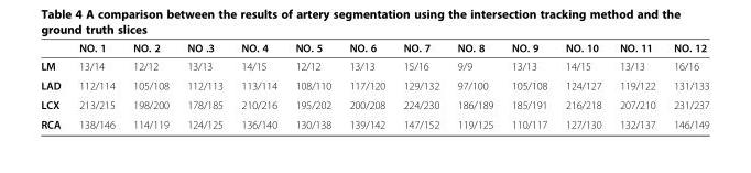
<table><thead><tr><td></td><td>NO. 1</td><td>NO. 2</td><td>NO .3</td><td>NO. 4</td><td>NO. 5</td><td>NO. 6</td><td>NO. 7</td><td>NO. 8</td><td>NO. 9</td><td>NO. 10</td><td>NO. 11</td><td>NO. 12</td></tr></thead><tbody><tr><td>LM</td><td>13/14</td><td>12/12</td><td>13/13</td><td>14/15</td><td>12/12</td><td>13/13</td><td>15/16</td><td>9/9</td><td>13/13</td><td>14/15</td><td>13/13</td><td>16/16</td></tr><tr><td>LAD</td><td>112/114</td><td>105/108</td><td>112/113</td><td>113/114</td><td>108/110</td><td>117/120</td><td>129/132</td><td>97/100</td><td>105/108</td><td>124/127</td><td>119/122</td><td>131/133</td></tr><tr><td>LCX</td><td>213/215</td><td>198/200</td><td>178/185</td><td>210/216</td><td>195/202</td><td>200/208</td><td>224/230</td><td>186/189</td><td>185/191</td><td>216/218</td><td>207/210</td><td>231/237</td></tr><tr><td>RCA</td><td>138/146</td><td>114/119</td><td>124/125</td><td>136/140</td><td>130/138</td><td>139/142</td><td>147/152</td><td>119/125</td><td>110/117</td><td>127/130</td><td>132/137</td><td>146/149</td></tr></tbody></table>